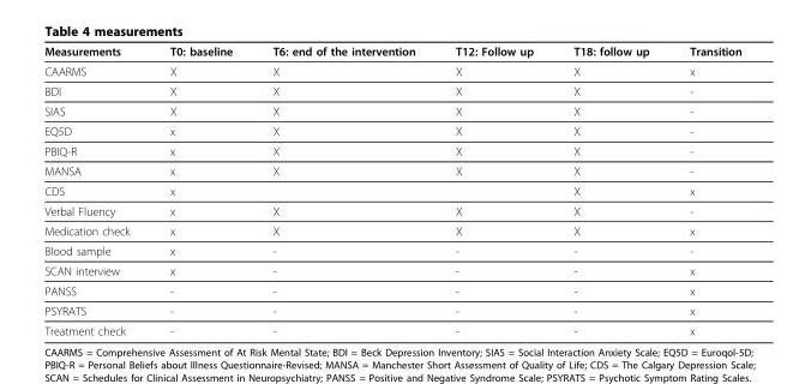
<table><thead><tr><td>Measurements</td><td>T0: baseline</td><td>T6: end of the intervention</td><td>T12: Follow up</td><td>T18: follow up</td><td>Transition</td></tr></thead><tbody><tr><td>CAARMS</td><td>X</td><td>X</td><td>X</td><td>X</td><td>x</td></tr><tr><td>BDI</td><td>X</td><td>X</td><td>X</td><td>X</td><td>-</td></tr><tr><td>SIAS</td><td>X</td><td>X</td><td>X</td><td>X</td><td>-</td></tr><tr><td>EQ5D</td><td>x</td><td>X</td><td>X</td><td>X</td><td>-</td></tr><tr><td>PBIQ-R</td><td>x</td><td>X</td><td>X</td><td>X</td><td>-</td></tr><tr><td>MANSA</td><td>x</td><td>X</td><td>X</td><td>X</td><td>-</td></tr><tr><td>CDS</td><td>x</td><td></td><td></td><td>X</td><td>x</td></tr><tr><td>Verbal Fluency</td><td>x</td><td>X</td><td>X</td><td>X</td><td>-</td></tr><tr><td>Medication check</td><td>x</td><td>X</td><td>X</td><td>X</td><td>x</td></tr><tr><td>Blood sample</td><td>x</td><td>-</td><td>-</td><td>-</td><td>-</td></tr><tr><td>SCAN interview</td><td>x</td><td>-</td><td>-</td><td>-</td><td>x</td></tr><tr><td>PANSS</td><td>-</td><td>-</td><td>-</td><td>-</td><td>x</td></tr><tr><td>PSYRATS</td><td>-</td><td>-</td><td>-</td><td>-</td><td>x</td></tr><tr><td>Treatment check</td><td>-</td><td>-</td><td>-</td><td>-</td><td>x</td></tr></tbody></table>